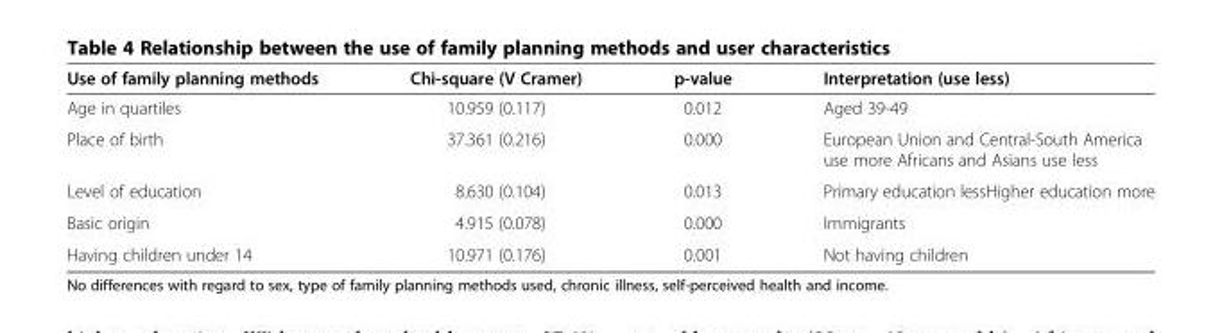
<table><thead><tr><td>Use of family planning methods</td><td>Chi-square (V Cramer)</td><td>p-value</td><td>Interpretation (use less)</td></tr></thead><tbody><tr><td>Age in quartiles</td><td>10.959 (0.117)</td><td>0.012</td><td>Aged 39-49</td></tr><tr><td>Place of birth</td><td>37.361 (0.216)</td><td>0.000</td><td>European Union and Central-South America use more Africans and Asians use less</td></tr><tr><td>Level of education</td><td>8.630 (0.104)</td><td>0.013</td><td>Primary education lessHigher education more</td></tr><tr><td>Basic origin</td><td>4.915 (0.078)</td><td>0.000</td><td>Immigrants</td></tr><tr><td>Having children under 14</td><td>10.971 (0.176)</td><td>0.001</td><td>Not having children</td></tr></tbody></table>